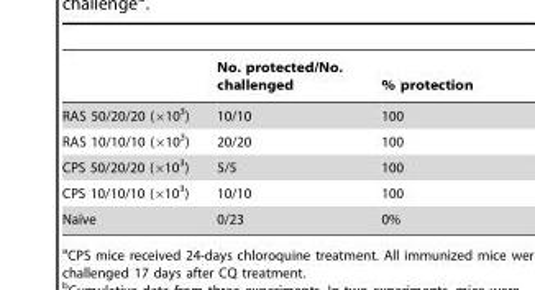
<table><thead><tr><td></td><td>No. protected/No. challenged</td><td>% protection</td></tr></thead><tbody><tr><td>RAS 50/20/20 (×10<sup>3</sup>)</td><td>10/10</td><td>100</td></tr><tr><td>RAS 10/10/10 (×10<sup>3</sup>)</td><td>20/20</td><td>100</td></tr><tr><td>CPS 50/20/20 (×10<sup>3</sup>)</td><td>5/5</td><td>100</td></tr><tr><td>CPS 10/10/10 (×10<sup>3</sup>)</td><td>10/10</td><td>100</td></tr><tr><td>Naı¨ve</td><td>0/23</td><td>0%</td></tr></tbody></table>